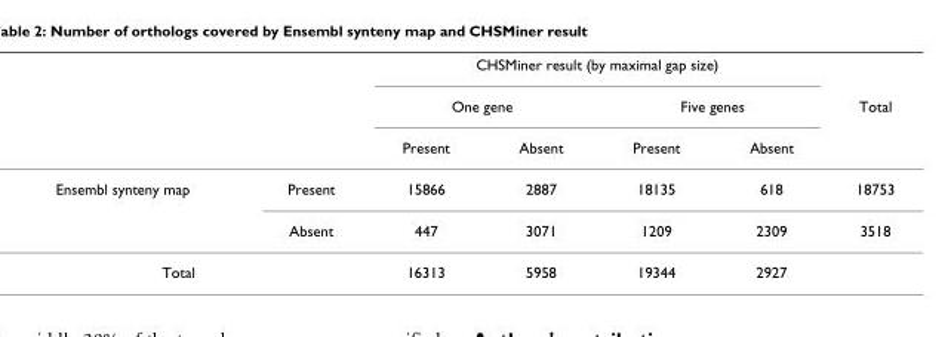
<table><thead><tr><td rowspan="3"></td><td rowspan="3"></td><td colspan="4">CHSMiner result (by maximal gap size)</td><td rowspan="3">Total</td></tr><tr><td colspan="2">One gene</td><td colspan="2">Five genes</td></tr><tr><td>Present</td><td>Absent</td><td>Present</td><td>Absent</td></tr></thead><tbody><tr><td rowspan="2">Ensembl synteny map</td><td>Present</td><td>15866</td><td>2887</td><td>18135</td><td>618</td><td>18753</td></tr><tr><td>Absent</td><td>447</td><td>3071</td><td>1209</td><td>2309</td><td>3518</td></tr><tr><td colspan="2">Total</td><td>16313</td><td>5958</td><td>19344</td><td>2927</td><td></td></tr></tbody></table>